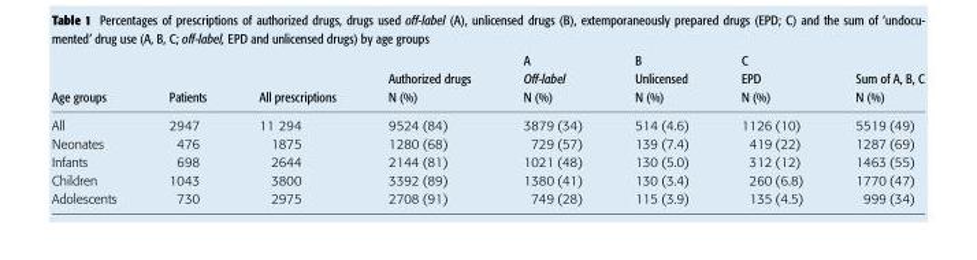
<table><thead><tr><td>Age groups</td><td>Patients</td><td>All prescriptions</td><td>Authorized drugs N (%)</td><td>A Off-label N (%)</td><td>B Unlicensed N (%)</td><td>C EPD N (%)</td><td>Sum of A, B, C N (%)</td></tr></thead><tbody><tr><td>All</td><td>2947</td><td>11 294</td><td>9524 (84)</td><td>3879 (34)</td><td>514 (4.6)</td><td>1126 (10)</td><td>5519 (49)</td></tr><tr><td>Neonates</td><td>476</td><td>1875</td><td>1280 (68)</td><td>729 (57)</td><td>139 (7.4)</td><td>419 (22)</td><td>1287 (69)</td></tr><tr><td>Infants</td><td>698</td><td>2644</td><td>2144 (81)</td><td>1021 (48)</td><td>130 (5.0)</td><td>312 (12)</td><td>1463 (55)</td></tr><tr><td>Children</td><td>1043</td><td>3800</td><td>3392 (89)</td><td>1380 (41)</td><td>130 (3.4)</td><td>260 (6.8)</td><td>1770 (47)</td></tr><tr><td>Adolescents</td><td>730</td><td>2975</td><td>2708 (91)</td><td>749 (28)</td><td>115 (3.9)</td><td>135 (4.5)</td><td>999 (34)</td></tr></tbody></table>